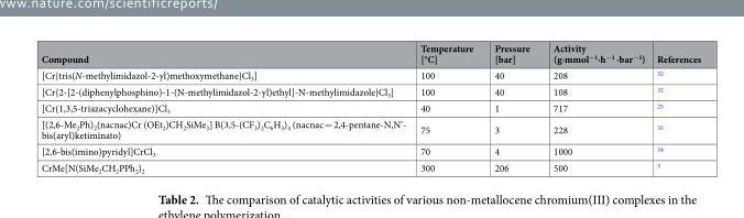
<table><thead><tr><td>Compound</td><td>Temperature [°C]</td><td>Pressure [bar]</td><td>Activity (g∙mmol<sup>−1</sup>∙h<sup>−1</sup> ∙bar<sup>−1</sup>)</td><td>References</td></tr></thead><tbody><tr><td>[Cr{tris(N-methylimidazol-2-yl)methoxymethane}Cl<sub>3</sub>]</td><td>100</td><td>40</td><td>208</td><td><sup>32</sup></td></tr><tr><td>[Cr{2-[2-(diphenylphosphino)-1-(N-methylimidazol-2-yl)ethyl]-N-methylimidazole}Cl<sub>3</sub>]</td><td>100</td><td>40</td><td>108</td><td><sup>32</sup></td></tr><tr><td>[Cr(1,3,5-triazacyclohexane)]Cl<sub>3</sub></td><td>40</td><td>1</td><td>717</td><td><sup>25</sup></td></tr><tr><td>[(2,6-Me<sub>2</sub>Ph)<sub>2</sub>(nacnac)Cr (OEt<sub>2</sub>)CH<sub>2</sub>SiMe<sub>3</sub>] B(3,5-(CF<sub>3</sub>)<sub>2</sub>C<sub>6</sub>H<sub>3</sub>)<sub>4</sub> (nacnac = 2,4-pentane-N,N’- bis(aryl)ketiminato)</td><td>75</td><td>3</td><td>228</td><td><sup>33</sup></td></tr><tr><td>[2,6-bis(imino)pyridyl]CrCl<sub>3</sub></td><td>70</td><td>4</td><td>1000</td><td><sup>34</sup></td></tr><tr><td>CrMe[N(SiMe<sub>2</sub>CH<sub>2</sub>PPh<sub>2</sub>)<sub>2</sub></td><td>300</td><td>206</td><td>500</td><td><sup>3</sup></td></tr></tbody></table>